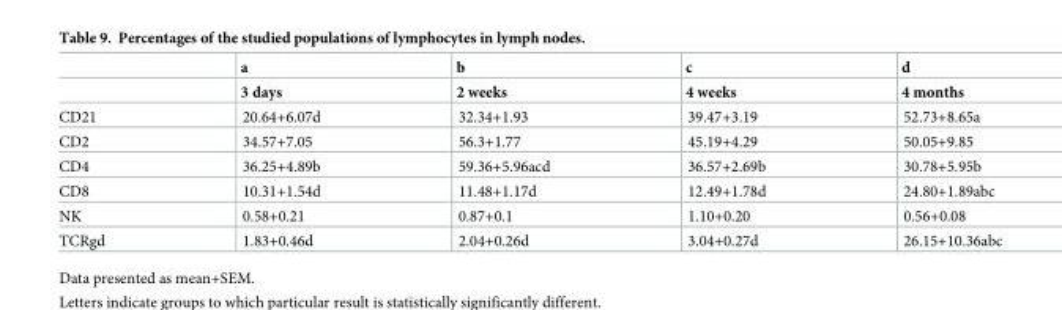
<table><thead><tr><td rowspan="2"></td><td rowspan="2">a 3 days</td><td rowspan="2">b 2 weeks</td><td rowspan="2">c 4 weeks</td><td rowspan="2">d 4 months</td></tr><tr></tr></thead><tbody><tr><td>CD21</td><td>20.64+6.07d</td><td>32.34+1.93</td><td>39.47+3.19</td><td>52.73+8.65a</td></tr><tr><td>CD2</td><td>34.57+7.05</td><td>56.3+1.77</td><td>45.19+4.29</td><td>50.05+9.85</td></tr><tr><td>CD4</td><td>36.25+4.89b</td><td>59.36+5.96acd</td><td>36.57+2.69b</td><td>30.78+5.95b</td></tr><tr><td>CD8</td><td>10.31+1.54d</td><td>11.48+1.17d</td><td>12.49+1.78d</td><td>24.80+1.89abc</td></tr><tr><td>NK</td><td>0.58+0.21</td><td>0.87+0.1</td><td>1.10+0.20</td><td>0.56+0.08</td></tr><tr><td>TCRgd</td><td>1.83+0.46d</td><td>2.04+0.26d</td><td>3.04+0.27d</td><td>26.15+10.36abc</td></tr></tbody></table>